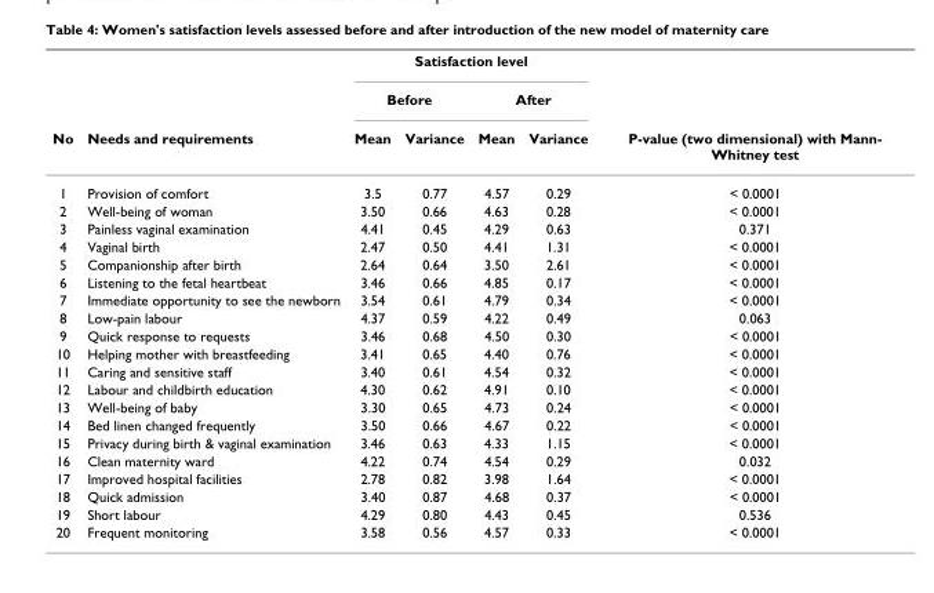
<table><thead><tr><td rowspan="3">No</td><td rowspan="3">Needs and requirements</td><td colspan="4">Satisfaction level</td><td rowspan="3">P-value (two dimensional) with Mann- Whitney test</td></tr><tr><td colspan="2">Before</td><td colspan="2">After</td></tr><tr><td>Mean</td><td>Variance</td><td>Mean</td><td>Variance</td></tr></thead><tbody><tr><td>1</td><td>Provision of comfort</td><td>3.5</td><td>0.77</td><td>4.57</td><td>0.29</td><td>&lt; 0.0001</td></tr><tr><td>2</td><td>Well-being of woman</td><td>3.50</td><td>0.66</td><td>4.63</td><td>0.28</td><td>&lt; 0.0001</td></tr><tr><td>3</td><td>Painless vaginal examination</td><td>4.41</td><td>0.45</td><td>4.29</td><td>0.63</td><td>0.371</td></tr><tr><td>4</td><td>Vaginal birth</td><td>2.47</td><td>0.50</td><td>4.41</td><td>1.31</td><td>&lt; 0.0001</td></tr><tr><td>5</td><td>Companionship after birth</td><td>2.64</td><td>0.64</td><td>3.50</td><td>2.61</td><td>&lt; 0.0001</td></tr><tr><td>6</td><td>Listening to the fetal heartbeat</td><td>3.46</td><td>0.66</td><td>4.85</td><td>0.17</td><td>&lt; 0.0001</td></tr><tr><td>7</td><td>Immediate opportunity to see the newborn</td><td>3.54</td><td>0.61</td><td>4.79</td><td>0.34</td><td>&lt; 0.0001</td></tr><tr><td>8</td><td>Low-pain labour</td><td>4.37</td><td>0.59</td><td>4.22</td><td>0.49</td><td>0.063</td></tr><tr><td>9</td><td>Quick response to requests</td><td>3.46</td><td>0.68</td><td>4.50</td><td>0.30</td><td>&lt; 0.0001</td></tr><tr><td>10</td><td>Helping mother with breastfeeding</td><td>3.41</td><td>0.65</td><td>4.40</td><td>0.76</td><td>&lt; 0.0001</td></tr><tr><td>11</td><td>Caring and sensitive staff</td><td>3.40</td><td>0.61</td><td>4.54</td><td>0.32</td><td>&lt; 0.0001</td></tr><tr><td>12</td><td>Labour and childbirth education</td><td>4.30</td><td>0.62</td><td>4.91</td><td>0.10</td><td>&lt; 0.0001</td></tr><tr><td>13</td><td>Well-being of baby</td><td>3.30</td><td>0.65</td><td>4.73</td><td>0.24</td><td>&lt; 0.0001</td></tr><tr><td>14</td><td>Bed linen changed frequently</td><td>3.50</td><td>0.66</td><td>4.67</td><td>0.22</td><td>&lt; 0.0001</td></tr><tr><td>15</td><td>Privacy during birth &amp; vaginal examination</td><td>3.46</td><td>0.63</td><td>4.33</td><td>1.15</td><td>&lt; 0.0001</td></tr><tr><td>16</td><td>Clean maternity ward</td><td>4.22</td><td>0.74</td><td>4.54</td><td>0.29</td><td>0.032</td></tr><tr><td>17</td><td>Improved hospital facilities</td><td>2.78</td><td>0.82</td><td>3.98</td><td>1.64</td><td>&lt; 0.0001</td></tr><tr><td>18</td><td>Quick admission</td><td>3.40</td><td>0.87</td><td>4.68</td><td>0.37</td><td>&lt; 0.0001</td></tr><tr><td>19</td><td>Short labour</td><td>4.29</td><td>0.80</td><td>4.43</td><td>0.45</td><td>0.536</td></tr><tr><td>20</td><td>Frequent monitoring</td><td>3.58</td><td>0.56</td><td>4.57</td><td>0.33</td><td>&lt; 0.0001</td></tr></tbody></table>